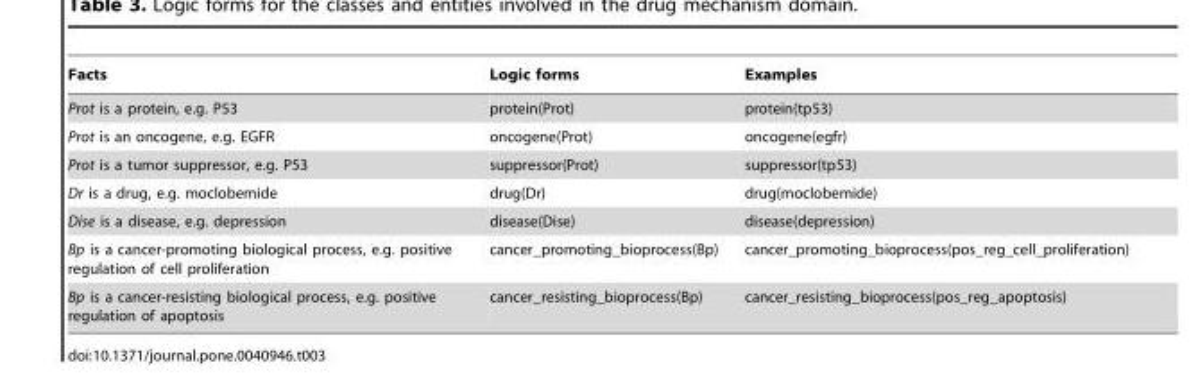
<table><thead><tr><td>Facts</td><td>Logic forms</td><td>Examples</td></tr></thead><tbody><tr><td>Prot is a protein, e.g. P53</td><td>protein(Prot)</td><td>protein(tp53)</td></tr><tr><td>Prot is an oncogene, e.g. EGFR</td><td>oncogene(Prot)</td><td>oncogene(egfr)</td></tr><tr><td>Prot is a tumor suppressor, e.g. P53</td><td>suppressor(Prot)</td><td>suppressor(tp53)</td></tr><tr><td>Dr is a drug, e.g. moclobemide</td><td>drug(Dr)</td><td>drug(moclobemide)</td></tr><tr><td>Dise is a disease, e.g. depression</td><td>disease(Dise)</td><td>disease(depression)</td></tr><tr><td>Bp is a cancer-promoting biological process, e.g. positive regulation of cell proliferation</td><td>cancer_promoting_bioprocess(Bp)</td><td>cancer_promoting_bioprocess(pos_reg_cell_proliferation)</td></tr><tr><td>Bp is a cancer-resisting biological process, e.g. positive regulation of apoptosis</td><td>cancer_resisting_bioprocess(Bp)</td><td>cancer_resisting_bioprocess(pos_reg_apoptosis)</td></tr></tbody></table>